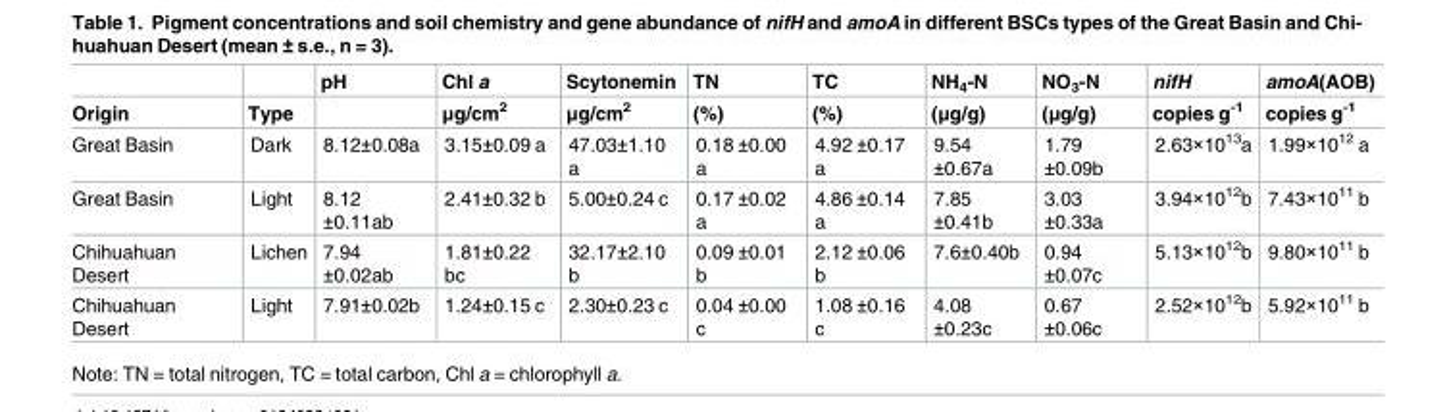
<table><thead><tr><td rowspan="2">Origin</td><td rowspan="2">Type</td><td rowspan="2">pH</td><td rowspan="2">Chl a μg/cm<sup>2</sup></td><td rowspan="2">Scytonemin μg/cm<sup>2</sup></td><td rowspan="2">TN (%)</td><td rowspan="2">TC (%)</td><td rowspan="2">NH<sub>4</sub>-N (μg/g)</td><td rowspan="2">NO<sub>3</sub>-N (μg/g)</td><td rowspan="2">nifH copies g<sup>-1</sup></td><td rowspan="2">amoA(AOB) copies g<sup>-1</sup></td></tr><tr></tr></thead><tbody><tr><td>Great Basin</td><td>Dark</td><td>8.12±0.08a</td><td>3.15±0.09 a</td><td>47.03±1.10 a</td><td>0.18 ±0.00 a</td><td>4.92 ±0.17 a</td><td>9.54 ±0.67a</td><td>1.79 ±0.09b</td><td>2.63×10<sup>13</sup>a</td><td>1.99×10<sup>12</sup> a</td></tr><tr><td>Great Basin</td><td>Light</td><td>8.12 ±0.11ab</td><td>2.41±0.32 b</td><td>5.00±0.24 c</td><td>0.17 ±0.02 a</td><td>4.86 ±0.14 a</td><td>7.85 ±0.41b</td><td>3.03 ±0.33a</td><td>3.94×10<sup>12</sup>b</td><td>7.43×10<sup>11</sup> b</td></tr><tr><td>Chihuahuan Desert</td><td>Lichen</td><td>7.94 ±0.02ab</td><td>1.81±0.22 bc</td><td>32.17±2.10 b</td><td>0.09 ±0.01 b</td><td>2.12 ±0.06 b</td><td>7.6±0.40b</td><td>0.94 ±0.07c</td><td>5.13×10<sup>12</sup>b</td><td>9.80×10<sup>11</sup> b</td></tr><tr><td>Chihuahuan Desert</td><td>Light</td><td>7.91±0.02b</td><td>1.24±0.15 c</td><td>2.30±0.23 c</td><td>0.04 ±0.00 c</td><td>1.08 ±0.16 c</td><td>4.08 ±0.23c</td><td>0.67 ±0.06c</td><td>2.52×10<sup>12</sup>b</td><td>5.92×10<sup>11</sup> b</td></tr></tbody></table>